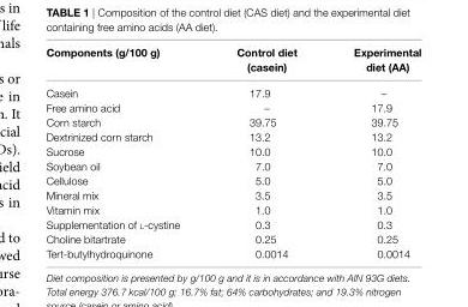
<table><thead><tr><td>components (g/100 g)</td><td>control diet (casein)</td><td>experimental diet (aa)</td></tr></thead><tbody><tr><td>Casein</td><td>17.9</td><td>–</td></tr><tr><td>Free amino acid</td><td>–</td><td>17.9</td></tr><tr><td>Corn starch</td><td>39.75</td><td>39.75</td></tr><tr><td>Dextrinized corn starch</td><td>13.2</td><td>13.2</td></tr><tr><td>Sucrose</td><td>10.0</td><td>10.0</td></tr><tr><td>Soybean oil</td><td>7.0</td><td>7.0</td></tr><tr><td>Cellulose</td><td>5.0</td><td>5.0</td></tr><tr><td>Mineral mix</td><td>3.5</td><td>3.5</td></tr><tr><td>Vitamin mix</td><td>1.0</td><td>1.0</td></tr><tr><td>Supplementation of l-cystine</td><td>0.3</td><td>0.3</td></tr><tr><td>Choline bitartrate</td><td>0.25</td><td>0.25</td></tr><tr><td>Tert-butylhydroquinone</td><td>0.0014</td><td>0.0014</td></tr></tbody></table>